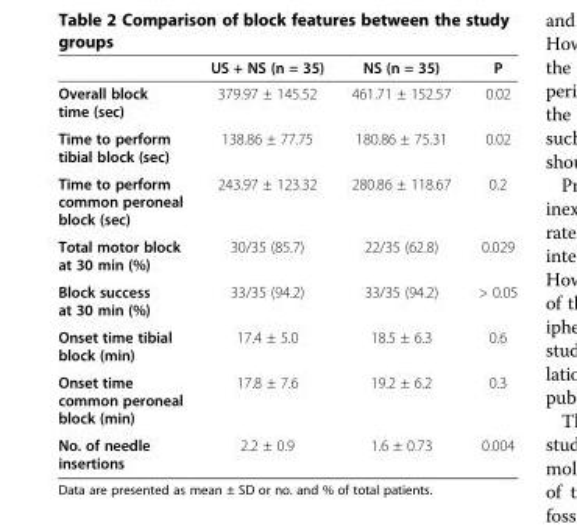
<table><thead><tr><td></td><td>US + NS (n = 35)</td><td>NS (n = 35)</td><td>P</td></tr></thead><tbody><tr><td>Overall block time (sec)</td><td>379.97 ± 145.52</td><td>461.71 ± 152.57</td><td>0.02</td></tr><tr><td>Time to perform tibial block (sec)</td><td>138.86 ± 77.75</td><td>180.86 ± 75.31</td><td>0.02</td></tr><tr><td>Time to perform common peroneal block (sec)</td><td>243.97 ± 123.32</td><td>280.86 ± 118.67</td><td>0.2</td></tr><tr><td>Total motor block at 30 min (%)</td><td>30/35 (85.7)</td><td>22/35 (62.8)</td><td>0.029</td></tr><tr><td>Block success at 30 min (%)</td><td>33/35 (94.2)</td><td>33/35 (94.2)</td><td>&gt; 0.05</td></tr><tr><td>Onset time tibial block (min)</td><td>17.4 ± 5.0</td><td>18.5 ± 6.3</td><td>0.6</td></tr><tr><td>Onset time common peroneal block (min)</td><td>17.8 ± 7.6</td><td>19.2 ± 6.2</td><td>0.3</td></tr><tr><td>No. of needle insertions</td><td>2.2 ± 0.9</td><td>1.6 ± 0.73</td><td>0.004</td></tr></tbody></table>